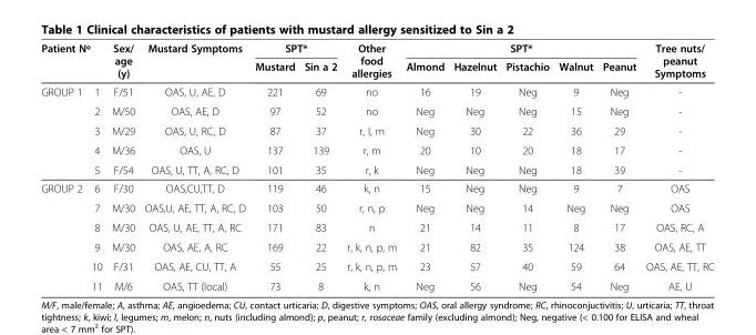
<table><thead><tr><td rowspan="2" colspan="2">Patient Nº</td><td rowspan="3">Sex/ age (y) F/51</td><td rowspan="3">Mustard Symptoms OAS, U, AE, D</td><td colspan="2">SPT*</td><td rowspan="3">Other food allergies no</td><td colspan="5">SPT*</td><td rowspan="3">Tree nuts/ peanut Symptoms -</td></tr><tr><td rowspan="2">Mustard 221</td><td rowspan="2">Sin a 2 69</td><td rowspan="2">Almond 16</td><td rowspan="2">Hazelnut 19</td><td rowspan="2">Pistachio Neg</td><td rowspan="2">Walnut 9</td><td rowspan="2">Peanut Neg</td></tr><tr><td>GROUP 1</td><td>1</td></tr></thead><tbody><tr><td></td><td>2</td><td>M/50</td><td>OAS, AE, D</td><td>97</td><td>52</td><td>no</td><td>Neg</td><td>Neg</td><td>Neg</td><td>15</td><td>Neg</td><td>-</td></tr><tr><td></td><td>3</td><td>M/29</td><td>OAS, U, RC, D</td><td>87</td><td>37</td><td>r, l, m</td><td>Neg</td><td>30</td><td>22</td><td>36</td><td>29</td><td>-</td></tr><tr><td></td><td>4</td><td>M/36</td><td>OAS, U</td><td>137</td><td>139</td><td>r, m</td><td>20</td><td>10</td><td>20</td><td>18</td><td>17</td><td>-</td></tr><tr><td></td><td>5</td><td>F/54</td><td>OAS, U, TT, A, RC, D</td><td>101</td><td>35</td><td>r, k</td><td>Neg</td><td>Neg</td><td>Neg</td><td>18</td><td>39</td><td>-</td></tr><tr><td rowspan="6">GROUP 2</td><td>6</td><td>F/30</td><td>OAS,CU,TT, D</td><td>119</td><td>46</td><td>k, n</td><td>15</td><td>Neg</td><td>Neg</td><td>9</td><td>7</td><td>OAS</td></tr><tr><td>7</td><td>M/30</td><td>OAS,U, AE, TT, A, RC, D</td><td>103</td><td>50</td><td>r, n, p</td><td>Neg</td><td>Neg</td><td>14</td><td>Neg</td><td>Neg</td><td>OAS</td></tr><tr><td>8</td><td>M/30</td><td>OAS, U, AE, TT, A, RC</td><td>171</td><td>83</td><td>n</td><td>21</td><td>14</td><td>11</td><td>8</td><td>17</td><td>OAS, RC, A</td></tr><tr><td>9</td><td>M/30</td><td>OAS, AE, A, RC</td><td>169</td><td>22</td><td>r, k, n, p, m</td><td>21</td><td>82</td><td>35</td><td>124</td><td>38</td><td>OAS, AE, TT</td></tr><tr><td>10</td><td>F/31</td><td>OAS, AE, CU, TT, A</td><td>55</td><td>25</td><td>r, k, n, p, m</td><td>23</td><td>57</td><td>40</td><td>59</td><td>64</td><td>OAS, AE, TT, RC</td></tr><tr><td>11</td><td>M/6</td><td>OAS, TT (local)</td><td>73</td><td>8</td><td>k, n</td><td>Neg</td><td>56</td><td>Neg</td><td>54</td><td>Neg</td><td>AE, U</td></tr></tbody></table>